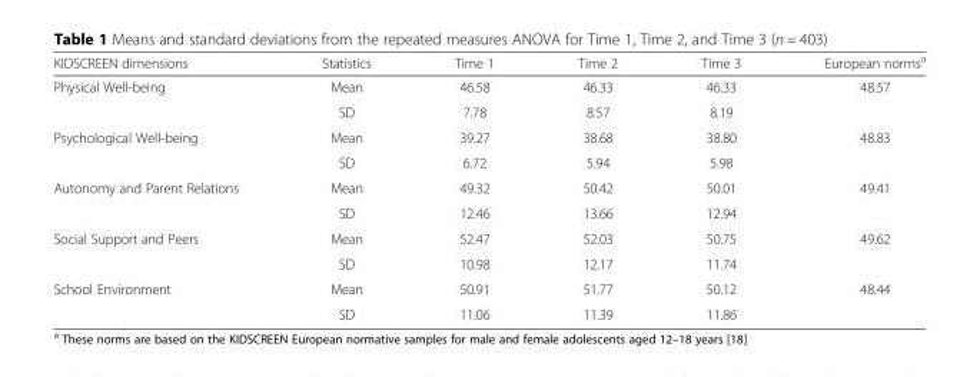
<table><thead><tr><td>KIDSCREEN dimensions</td><td>Statistics</td><td>Time 1</td><td>Time 2</td><td>Time 3</td><td>European norms<sup>a</sup></td></tr></thead><tbody><tr><td rowspan="2">Physical Well-being</td><td>Mean</td><td>46.58</td><td>46.33</td><td>46.33</td><td>48.57</td></tr><tr><td>SD</td><td>7.78</td><td>8.57</td><td>8.19</td><td></td></tr><tr><td rowspan="2">Psychological Well-being</td><td>Mean</td><td>39.27</td><td>38.68</td><td>38.80</td><td>48.83</td></tr><tr><td>SD</td><td>6.72</td><td>5.94</td><td>5.98</td><td></td></tr><tr><td rowspan="2">Autonomy and Parent Relations</td><td>Mean</td><td>49.32</td><td>50.42</td><td>50.01</td><td>49.41</td></tr><tr><td>SD</td><td>12.46</td><td>13.66</td><td>12.94</td><td></td></tr><tr><td rowspan="2">Social Support and Peers</td><td>Mean</td><td>52.47</td><td>52.03</td><td>50.75</td><td>49.62</td></tr><tr><td>SD</td><td>10.98</td><td>12.17</td><td>11.74</td><td></td></tr><tr><td rowspan="2">School Environment</td><td>Mean</td><td>50.91</td><td>51.77</td><td>50.12</td><td>48.44</td></tr><tr><td>SD</td><td>11.06</td><td>11.39</td><td>11.86</td><td></td></tr></tbody></table>